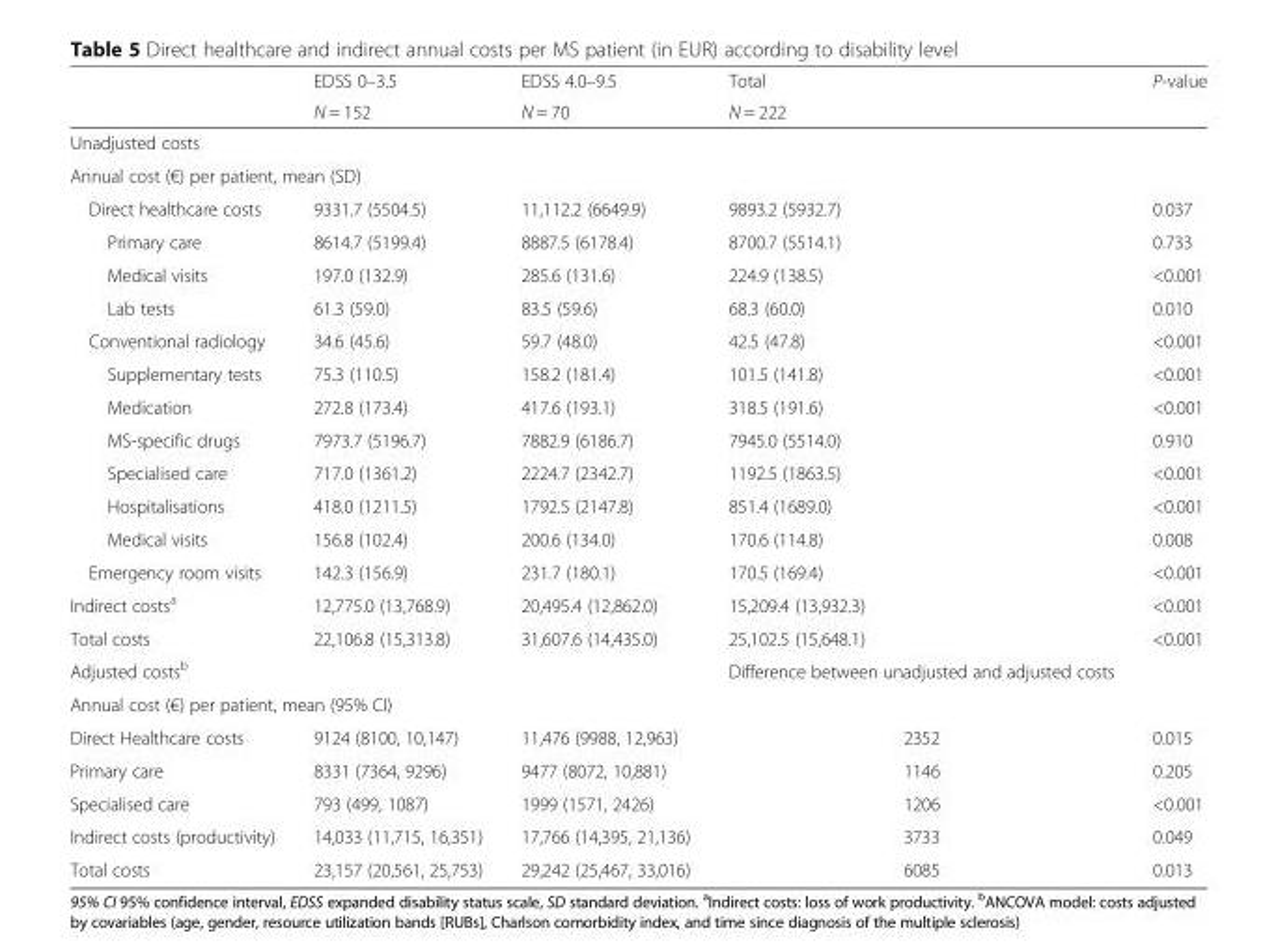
<table><thead><tr><td rowspan="2"></td><td rowspan="2">EDSS 0–3.5 N = 152</td><td rowspan="2">EDSS 4.0–9.5 N = 70</td><td rowspan="2">Total N = 222</td><td rowspan="2">P-value</td></tr><tr></tr></thead><tbody><tr><td colspan="5">Unadjusted costs</td></tr><tr><td colspan="5">Annual cost (€) per patient, mean (SD)</td></tr><tr><td>Direct healthcare costs</td><td>9331.7 (5504.5)</td><td>11,112.2 (6649.9)</td><td>9893.2 (5932.7)</td><td>0.037</td></tr><tr><td>Primary care</td><td>8614.7 (5199.4)</td><td>8887.5 (6178.4)</td><td>8700.7 (5514.1)</td><td>0.733</td></tr><tr><td>Medical visits</td><td>197.0 (132.9)</td><td>285.6 (131.6)</td><td>224.9 (138.5)</td><td>&lt;0.001</td></tr><tr><td>Lab tests</td><td>61.3 (59.0)</td><td>83.5 (59.6)</td><td>68.3 (60.0)</td><td>0.010</td></tr><tr><td>Conventional radiology</td><td>34.6 (45.6)</td><td>59.7 (48.0)</td><td>42.5 (47.8)</td><td>&lt;0.001</td></tr><tr><td>Supplementary tests</td><td>75.3 (110.5)</td><td>158.2 (181.4)</td><td>101.5 (141.8)</td><td>&lt;0.001</td></tr><tr><td>Medication</td><td>272.8 (173.4)</td><td>417.6 (193.1)</td><td>318.5 (191.6)</td><td>&lt;0.001</td></tr><tr><td>MS-specific drugs</td><td>7973.7 (5196.7)</td><td>7882.9 (6186.7)</td><td>7945.0 (5514.0)</td><td>0.910</td></tr><tr><td>Specialised care</td><td>717.0 (1361.2)</td><td>2224.7 (2342.7)</td><td>1192.5 (1863.5)</td><td>&lt;0.001</td></tr><tr><td>Hospitalisations</td><td>418.0 (1211.5)</td><td>1792.5 (2147.8)</td><td>851.4 (1689.0)</td><td>&lt;0.001</td></tr><tr><td>Medical visits</td><td>156.8 (102.4)</td><td>200.6 (134.0)</td><td>170.6 (114.8)</td><td>0.008</td></tr><tr><td>Emergency room visits</td><td>142.3 (156.9)</td><td>231.7 (180.1)</td><td>170.5 (169.4)</td><td>&lt;0.001</td></tr><tr><td>Indirect costs<sup>a</sup></td><td>12,775.0 (13,768.9)</td><td>20,495.4 (12,862.0)</td><td>15,209.4 (13,932.3)</td><td>&lt;0.001</td></tr><tr><td>Total costs</td><td>22,106.8 (15,313.8)</td><td>31,607.6 (14,435.0)</td><td>25,102.5 (15,648.1)</td><td>&lt;0.001</td></tr><tr><td>Adjusted costs<sup>b</sup></td><td></td><td></td><td>Difference between unadjusted and adjusted costs</td><td></td></tr><tr><td colspan="5">Annual cost (€) per patient, mean (95% CI)</td></tr><tr><td>Direct Healthcare costs</td><td>9124 (8100, 10,147)</td><td>11,476 (9988, 12,963)</td><td>2352</td><td>0.015</td></tr><tr><td>Primary care</td><td>8331 (7364, 9296)</td><td>9477 (8072, 10,881)</td><td>1146</td><td>0.205</td></tr><tr><td>Specialised care</td><td>793 (499, 1087)</td><td>1999 (1571, 2426)</td><td>1206</td><td>&lt;0.001</td></tr><tr><td>Indirect costs (productivity)</td><td>14,033 (11,715, 16,351)</td><td>17,766 (14,395, 21,136)</td><td>3733</td><td>0.049</td></tr><tr><td>Total costs</td><td>23,157 (20,561, 25,753)</td><td>29,242 (25,467, 33,016)</td><td>6085</td><td>0.013</td></tr></tbody></table>